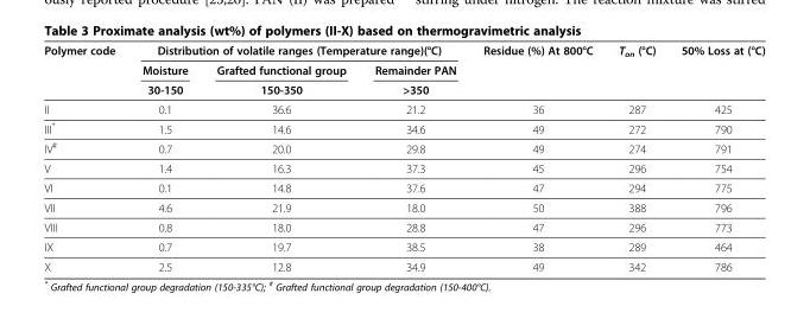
<table><thead><tr><td rowspan="3">Polymer code</td><td colspan="3">Distribution of volatile ranges (Temperature range)(°C)</td><td rowspan="3">Residue (%) At 800°C</td><td rowspan="3">T<sub>on</sub> (°C)</td><td rowspan="3">50% Loss at (°C)</td></tr><tr><td rowspan="2">Moisture 30-150</td><td rowspan="2">Grafted functional group 150-350</td><td rowspan="2">Remainder PAN &gt;350</td></tr><tr></tr></thead><tbody><tr><td>II</td><td>0.1</td><td>36.6</td><td>21.2</td><td>36</td><td>287</td><td>425</td></tr><tr><td>III*</td><td>1.5</td><td>14.6</td><td>34.6</td><td>49</td><td>272</td><td>790</td></tr><tr><td>IV<sup>#</sup></td><td>0.7</td><td>20.0</td><td>29.8</td><td>49</td><td>274</td><td>791</td></tr><tr><td>V</td><td>1.4</td><td>16.3</td><td>37.3</td><td>45</td><td>296</td><td>754</td></tr><tr><td>VI</td><td>0.1</td><td>14.8</td><td>37.6</td><td>47</td><td>294</td><td>775</td></tr><tr><td>VII</td><td>4.6</td><td>21.9</td><td>18.0</td><td>50</td><td>388</td><td>796</td></tr><tr><td>VIII</td><td>0.8</td><td>18.0</td><td>28.8</td><td>47</td><td>296</td><td>773</td></tr><tr><td>IX</td><td>0.7</td><td>19.7</td><td>38.5</td><td>38</td><td>289</td><td>464</td></tr><tr><td>X</td><td>2.5</td><td>12.8</td><td>34.9</td><td>49</td><td>342</td><td>786</td></tr></tbody></table>